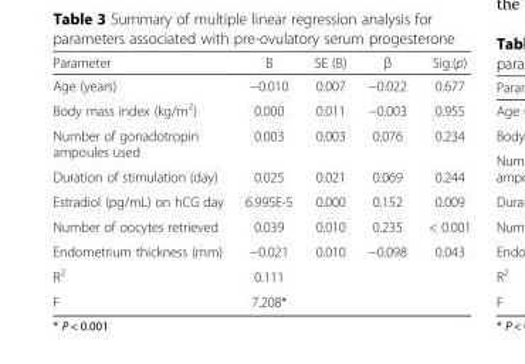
<table><thead><tr><td>Parameter</td><td>B</td><td>SE (B)</td><td>β</td><td>Sig.(p)</td></tr></thead><tbody><tr><td>Age (years)</td><td>−0.010</td><td>0.007</td><td>−0.022</td><td>0.677</td></tr><tr><td>Body mass index (kg/m<sup>2</sup>)</td><td>0.000</td><td>0.011</td><td>−0.003</td><td>0.955</td></tr><tr><td>Number of gonadotropin ampoules used</td><td>0.003</td><td>0.003</td><td>0.076</td><td>0.234</td></tr><tr><td>Duration of stimulation (day)</td><td>0.025</td><td>0.021</td><td>0.069</td><td>0.244</td></tr><tr><td>Estradiol (pg/mL) on hCG day</td><td>6.995E-5</td><td>0.000</td><td>0.152</td><td>0.009</td></tr><tr><td>Number of oocytes retrieved</td><td>0.039</td><td>0.010</td><td>0.235</td><td>&lt; 0.001</td></tr><tr><td>Endometrium thickness (mm)</td><td>−0.021</td><td>0.010</td><td>−0.098</td><td>0.043</td></tr><tr><td>R<sup>2</sup></td><td>0.111</td><td></td><td></td><td></td></tr><tr><td>F</td><td>7.208*</td><td></td><td></td><td></td></tr></tbody></table>